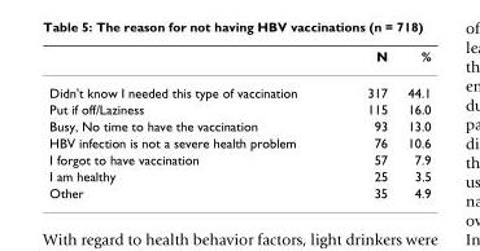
<table><thead><tr><td></td><td>N</td><td>%</td></tr></thead><tbody><tr><td>Didn&#x27;t know I needed this type of vaccination</td><td>317</td><td>44.1</td></tr><tr><td>Put if off/Laziness</td><td>115</td><td>16.0</td></tr><tr><td>Busy, No time to have the vaccination</td><td>93</td><td>13.0</td></tr><tr><td>HBV infection is not a severe health problem</td><td>76</td><td>10.6</td></tr><tr><td>I forgot to have vaccination</td><td>57</td><td>7.9</td></tr><tr><td>I am healthy</td><td>25</td><td>3.5</td></tr><tr><td>Other</td><td>35</td><td>4.9</td></tr></tbody></table>